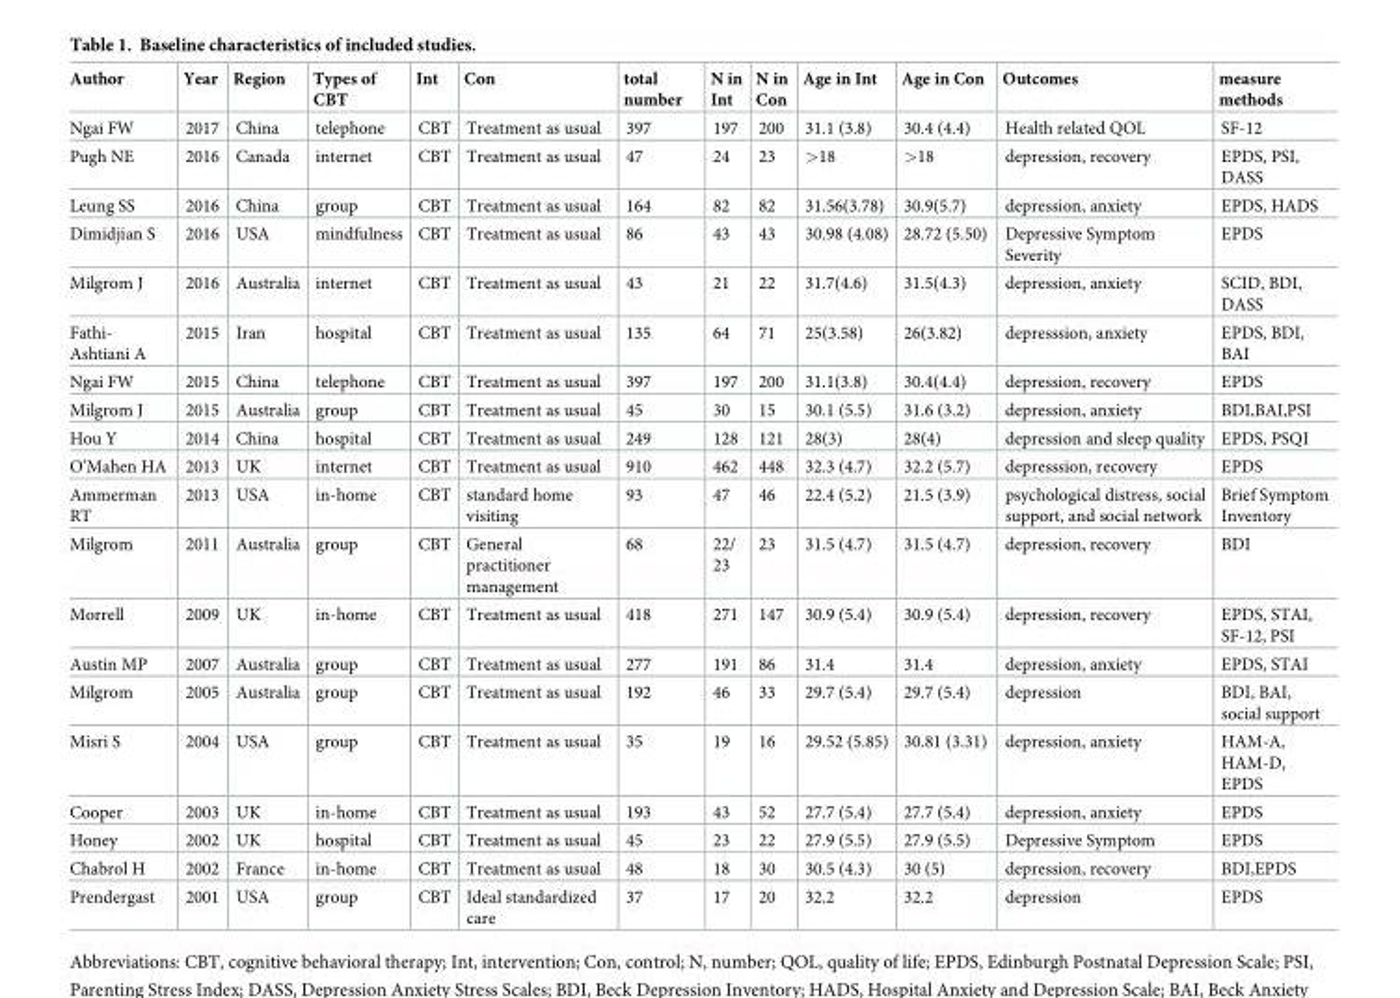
<table><thead><tr><td>Author</td><td>Year</td><td>Region</td><td>Types of CBT</td><td>Int</td><td>Con</td><td>total number</td><td>N in Int</td><td>N in Con</td><td>Age in Int</td><td>Age in Con</td><td>Outcomes</td><td>measure methods</td></tr></thead><tbody><tr><td>Ngai FW</td><td>2017</td><td>China</td><td>telephone</td><td>CBT</td><td>Treatment as usual</td><td>397</td><td>197</td><td>200</td><td>31.1 (3.8)</td><td>30.4 (4.4)</td><td>Health related QOL</td><td>SF-12</td></tr><tr><td>Pugh NE</td><td>2016</td><td>Canada</td><td>internet</td><td>CBT</td><td>Treatment as usual</td><td>47</td><td>24</td><td>23</td><td>&gt;18</td><td>&gt;18</td><td>depression, recovery</td><td>EPDS, PSI, DASS</td></tr><tr><td>Leung SS</td><td>2016</td><td>China</td><td>group</td><td>CBT</td><td>Treatment as usual</td><td>164</td><td>82</td><td>82</td><td>31.56(3.78)</td><td>30.9(5.7)</td><td>depression, anxiety</td><td>EPDS, HADS</td></tr><tr><td>Dimidjian S</td><td>2016</td><td>USA</td><td>mindfulness</td><td>CBT</td><td>Treatment as usual</td><td>86</td><td>43</td><td>43</td><td>30.98 (4.08)</td><td>28.72 (5.50)</td><td>Depressive Symptom Severity</td><td>EPDS</td></tr><tr><td>Milgrom J</td><td>2016</td><td>Australia</td><td>internet</td><td>CBT</td><td>Treatment as usual</td><td>43</td><td>21</td><td>22</td><td>31.7(4.6)</td><td>31.5(4.3)</td><td>depression, anxiety</td><td>SCID, BDI, DASS</td></tr><tr><td>Fathi- Ashtiani A</td><td>2015</td><td>Iran</td><td>hospital</td><td>CBT</td><td>Treatment as usual</td><td>135</td><td>64</td><td>71</td><td>25(3.58)</td><td>26(3.82)</td><td>depresssion, anxiety</td><td>EPDS, BDI, BAI</td></tr><tr><td>Ngai FW</td><td>2015</td><td>China</td><td>telephone</td><td>CBT</td><td>Treatment as usual</td><td>397</td><td>197</td><td>200</td><td>31.1(3.8)</td><td>30.4(4.4)</td><td>depression, recovery</td><td>EPDS</td></tr><tr><td>Milgrom J</td><td>2015</td><td>Australia</td><td>group</td><td>CBT</td><td>Treatment as usual</td><td>45</td><td>30</td><td>15</td><td>30.1 (5.5)</td><td>31.6 (3.2)</td><td>depression, anxiety</td><td>BDI,BAI,PSI</td></tr><tr><td>Hou Y</td><td>2014</td><td>China</td><td>hospital</td><td>CBT</td><td>Treatment as usual</td><td>249</td><td>128</td><td>121</td><td>28(3)</td><td>28(4)</td><td>depression and sleep quality</td><td>EPDS, PSQI</td></tr><tr><td>O’Mahen HA</td><td>2013</td><td>UK</td><td>internet</td><td>CBT</td><td>Treatment as usual</td><td>910</td><td>462</td><td>448</td><td>32.3 (4.7)</td><td>32.2 (5.7)</td><td>depresssion, recovery</td><td>EPDS</td></tr><tr><td>Ammerman RT</td><td>2013</td><td>USA</td><td>in-home</td><td>CBT</td><td>standard home visiting</td><td>93</td><td>47</td><td>46</td><td>22.4 (5.2)</td><td>21.5 (3.9)</td><td>psychological distress, social support, and social network</td><td>Brief Symptom Inventory</td></tr><tr><td>Milgrom</td><td>2011</td><td>Australia</td><td>group</td><td>CBT</td><td>General practitioner management</td><td>68</td><td>22/ 23</td><td>23</td><td>31.5 (4.7)</td><td>31.5 (4.7)</td><td>depression, recovery</td><td>BDI</td></tr><tr><td>Morrell</td><td>2009</td><td>UK</td><td>in-home</td><td>CBT</td><td>Treatment as usual</td><td>418</td><td>271</td><td>147</td><td>30.9 (5.4)</td><td>30.9 (5.4)</td><td>depression, recovery</td><td>EPDS, STAI, SF-12, PSI</td></tr><tr><td>Austin MP</td><td>2007</td><td>Australia</td><td>group</td><td>CBT</td><td>Treatment as usual</td><td>277</td><td>191</td><td>86</td><td>31.4</td><td>31.4</td><td>depression, anxiety</td><td>EPDS, STAI</td></tr><tr><td>Milgrom</td><td>2005</td><td>Australia</td><td>group</td><td>CBT</td><td>Treatment as usual</td><td>192</td><td>46</td><td>33</td><td>29.7 (5.4)</td><td>29.7 (5.4)</td><td>depression</td><td>BDI, BAI, social support</td></tr><tr><td>Misri S</td><td>2004</td><td>USA</td><td>group</td><td>CBT</td><td>Treatment as usual</td><td>35</td><td>19</td><td>16</td><td>29.52 (5.85)</td><td>30.81 (3.31)</td><td>depression, anxiety</td><td>HAM-A, HAM-D, EPDS</td></tr><tr><td>Cooper</td><td>2003</td><td>UK</td><td>in-home</td><td>CBT</td><td>Treatment as usual</td><td>193</td><td>43</td><td>52</td><td>27.7 (5.4)</td><td>27.7 (5.4)</td><td>depression, anxiety</td><td>EPDS</td></tr><tr><td>Honey</td><td>2002</td><td>UK</td><td>hospital</td><td>CBT</td><td>Treatment as usual</td><td>45</td><td>23</td><td>22</td><td>27.9 (5.5)</td><td>27.9 (5.5)</td><td>Depressive Symptom</td><td>EPDS</td></tr><tr><td>Chabrol H</td><td>2002</td><td>France</td><td>in-home</td><td>CBT</td><td>Treatment as usual</td><td>48</td><td>18</td><td>30</td><td>30.5 (4.3)</td><td>30 (5)</td><td>depression, recovery</td><td>BDI,EPDS</td></tr><tr><td>Prendergast</td><td>2001</td><td>USA</td><td>group</td><td>CBT</td><td>Ideal standardized care</td><td>37</td><td>17</td><td>20</td><td>32.2</td><td>32.2</td><td>depression</td><td>EPDS</td></tr></tbody></table>